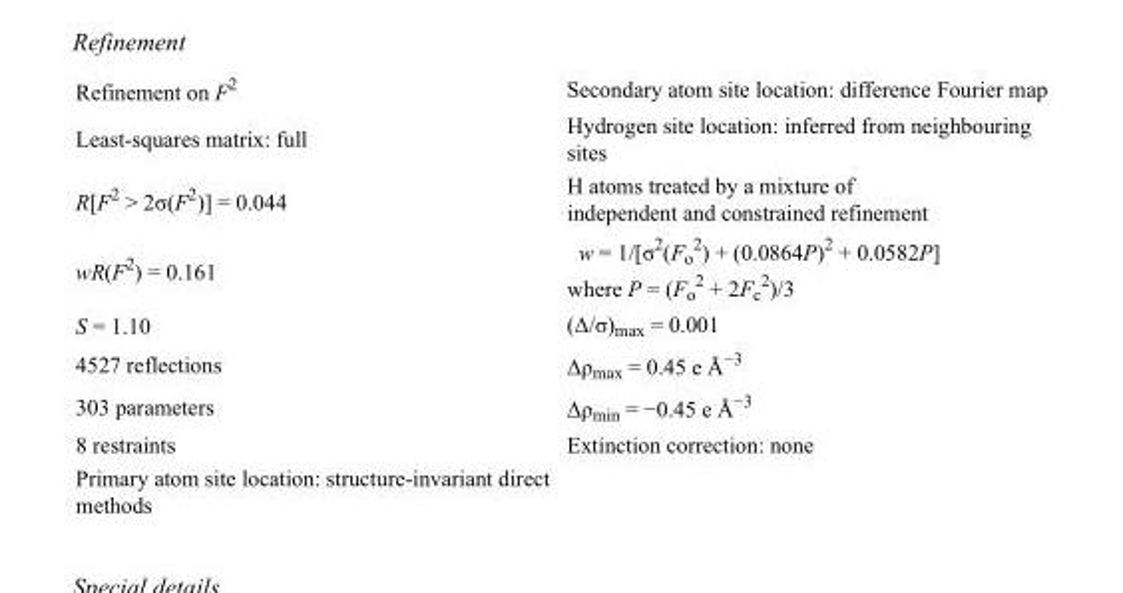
<table><tbody><tr><td>Refinement on F<sup>2</sup></td><td>Secondary atom site location: difference Fourier map</td></tr><tr><td>Least-squares matrix: full</td><td>Hydrogen site location: inferred from neighbouring sites</td></tr><tr><td>R[F<sup>2</sup> &gt; 2σ(F<sup>2</sup>)] = 0.044</td><td>H atoms treated by a mixture of independent and constrained refinement</td></tr><tr><td>wR(F<sup>2</sup>) = 0.161</td><td>w = 1/[σ<sup>2</sup>(F<sub>o</sub> <sup>2</sup>) + (0.0864P)<sup>2</sup> + 0.0582P] where P = (F<sub>o</sub> <sup>2</sup> + 2F<sub>c</sub> <sup>2</sup>)/3</td></tr><tr><td>S = 1.10</td><td>(Δ/σ)<sub>max</sub> = 0.001</td></tr><tr><td>4527 reflections</td><td>Δρ<sub>max</sub> = 0.45 e Å<sup>−3</sup></td></tr><tr><td>303 parameters</td><td>Δρ<sub>min</sub> = −0.45 e Å<sup>−3</sup></td></tr><tr><td>8 restraints</td><td>Extinction correction: none</td></tr><tr><td>Primary atom site location: structure-invariant direct methods</td><td></td></tr></tbody></table>